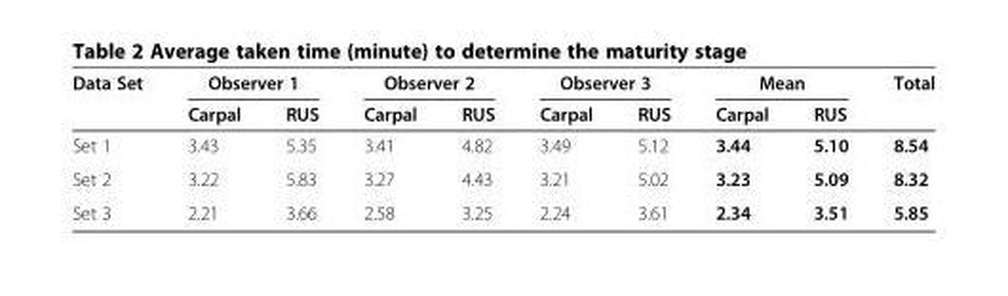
<table><thead><tr><td rowspan="2">Data Set</td><td colspan="2">Observer 1</td><td colspan="2">Observer 2</td><td colspan="2">Observer 3</td><td colspan="2">Mean</td><td rowspan="2">Total</td></tr><tr><td>Carpal</td><td>RUS</td><td>Carpal</td><td>RUS</td><td>Carpal</td><td>RUS</td><td>Carpal</td><td>RUS</td></tr></thead><tbody><tr><td>Set 1</td><td>3.43</td><td>5.35</td><td>3.41</td><td>4.82</td><td>3.49</td><td>5.12</td><td>3.44</td><td>5.10</td><td>8.54</td></tr><tr><td>Set 2</td><td>3.22</td><td>5.83</td><td>3.27</td><td>4.43</td><td>3.21</td><td>5.02</td><td>3.23</td><td>5.09</td><td>8.32</td></tr><tr><td>Set 3</td><td>2.21</td><td>3.66</td><td>2.58</td><td>3.25</td><td>2.24</td><td>3.61</td><td>2.34</td><td>3.51</td><td>5.85</td></tr></tbody></table>